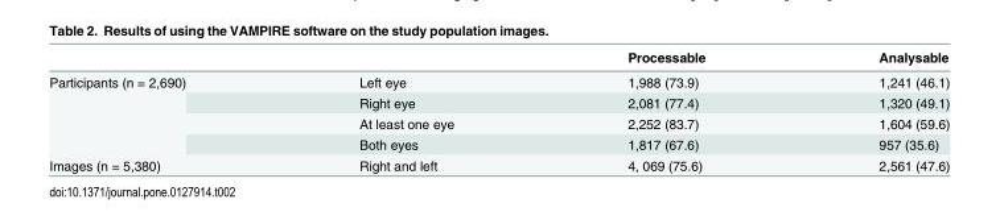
<table><thead><tr><td></td><td></td><td>Processable</td><td>Analysable</td></tr></thead><tbody><tr><td rowspan="4">Participants (n = 2,690)</td><td>Left eye</td><td>1,988 (73.9)</td><td>1,241 (46.1)</td></tr><tr><td>Right eye</td><td>2,081 (77.4)</td><td>1,320 (49.1)</td></tr><tr><td>At least one eye</td><td>2,252 (83.7)</td><td>1,604 (59.6)</td></tr><tr><td>Both eyes</td><td>1,817 (67.6)</td><td>957 (35.6)</td></tr><tr><td>Images (n = 5,380)</td><td>Right and left</td><td>4, 069 (75.6)</td><td>2,561 (47.6)</td></tr></tbody></table>